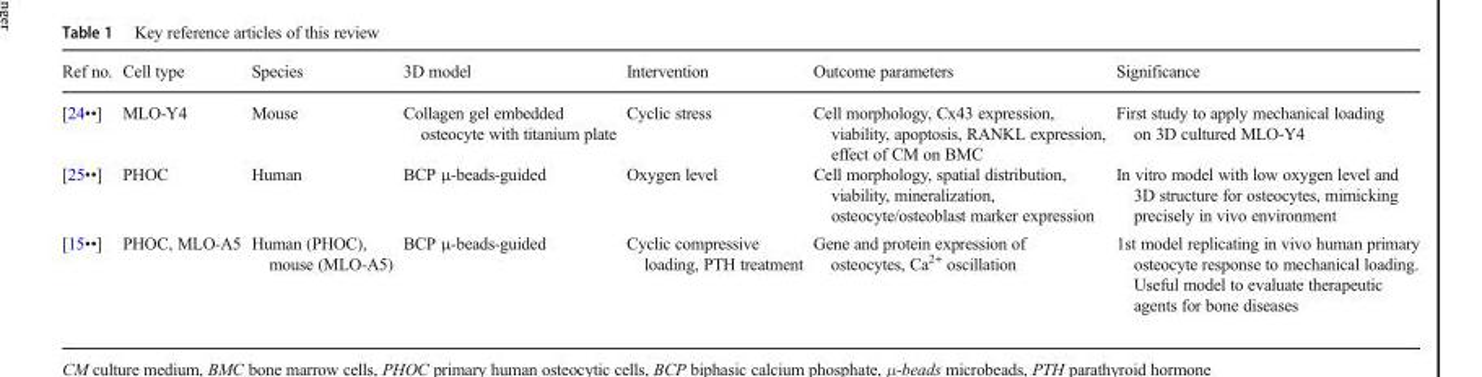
<table><thead><tr><td>Ref no.</td><td>Cell type</td><td>Species</td><td>3D model</td><td>Intervention</td><td>Outcome parameters</td><td>Significance</td></tr></thead><tbody><tr><td>[24••]</td><td>MLO-Y4</td><td>Mouse</td><td>Collagen gel embedded osteocyte with titanium plate</td><td>Cyclic stress</td><td>Cell morphology, Cx43 expression, viability, apoptosis, RANKL expression, effect of CM on BMC</td><td>First study to apply mechanical loading on 3D cultured MLO-Y4</td></tr><tr><td>[25••]</td><td>PHOC</td><td>Human</td><td>BCP μ-beads-guided</td><td>Oxygen level</td><td>Cell morphology, spatial distribution, viability, mineralization, osteocyte/osteoblast marker expression</td><td>In vitro model with low oxygen level and 3D structure for osteocytes, mimicking precisely in vivo environment</td></tr><tr><td>[15••]</td><td>PHOC, MLO-A5</td><td>Human (PHOC), mouse (MLO-A5)</td><td>BCP μ-beads-guided</td><td>Cyclic compressive loading, PTH treatment</td><td>Gene and protein expression of osteocytes, Ca<sup>2+</sup> oscillation</td><td>1st model replicating in vivo human primary osteocyte response to mechanical loading. Useful model to evaluate therapeutic agents for bone diseases</td></tr></tbody></table>